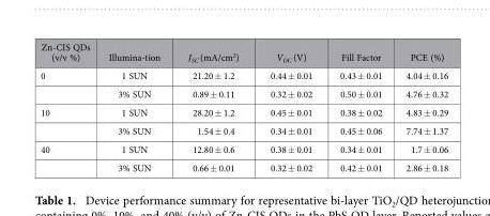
<table><thead><tr><td>Zn-CIS QDs (v/v %)</td><td>Illumina-tion</td><td>J<sub>SC</sub> (mA/cm<sup>2</sup>)</td><td>V<sub>OC</sub> (V)</td><td>Fill Factor</td><td>PCE (%)</td></tr></thead><tbody><tr><td rowspan="2">0</td><td>1 SUN</td><td>21.20 ± 1.2</td><td>0.44 ± 0.01</td><td>0.43 ± 0.01</td><td>4.04 ± 0.16</td></tr><tr><td>3% SUN</td><td>0.89 ± 0.11</td><td>0.32 ± 0.02</td><td>0.50 ± 0.01</td><td>4.76 ± 0.32</td></tr><tr><td rowspan="2">10</td><td>1 SUN</td><td>28.20 ± 1.2</td><td>0.45 ± 0.01</td><td>0.38 ± 0.02</td><td>4.83 ± 0.29</td></tr><tr><td>3% SUN</td><td>1.54 ± 0.4</td><td>0.34 ± 0.01</td><td>0.45 ± 0.06</td><td>7.74 ± 1.37</td></tr><tr><td rowspan="2">40</td><td>1 SUN</td><td>12.80 ± 0.6</td><td>0.38 ± 0.01</td><td>0.34 ± 0.01</td><td>1.7 ± 0.06</td></tr><tr><td>3% SUN</td><td>0.66 ± 0.01</td><td>0.32 ± 0.02</td><td>0.42 ± 0.01</td><td>2.86 ± 0.18</td></tr></tbody></table>